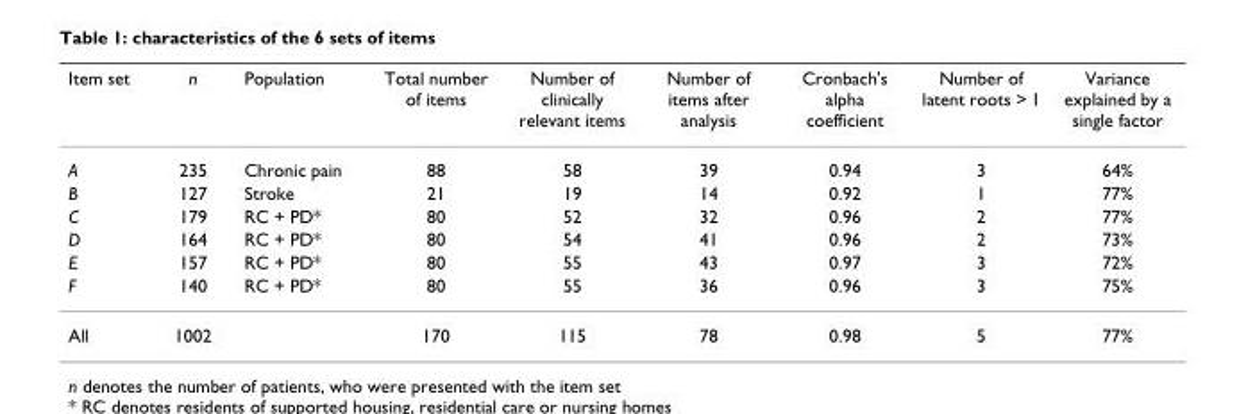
<table><thead><tr><td>Item set</td><td>n</td><td>Population</td><td>Total number of items</td><td>Number of clinically relevant items</td><td>Number of items after analysis</td><td>Cronbach&#x27;s alpha coefficient</td><td>Number of latent roots &gt; 1</td><td>Variance explained by a single factor</td></tr></thead><tbody><tr><td>A</td><td>235</td><td>Chronic pain</td><td>88</td><td>58</td><td>39</td><td>0.94</td><td>3</td><td>64%</td></tr><tr><td>B</td><td>127</td><td>Stroke</td><td>21</td><td>19</td><td>14</td><td>0.92</td><td>1</td><td>77%</td></tr><tr><td>C</td><td>179</td><td>RC + PD*</td><td>80</td><td>52</td><td>32</td><td>0.96</td><td>2</td><td>77%</td></tr><tr><td>D</td><td>164</td><td>RC + PD*</td><td>80</td><td>54</td><td>41</td><td>0.96</td><td>2</td><td>73%</td></tr><tr><td>E</td><td>157</td><td>RC + PD*</td><td>80</td><td>55</td><td>43</td><td>0.97</td><td>3</td><td>72%</td></tr><tr><td>F</td><td>140</td><td>RC + PD*</td><td>80</td><td>55</td><td>36</td><td>0.96</td><td>3</td><td>75%</td></tr><tr><td>All</td><td>1002</td><td></td><td>170</td><td>115</td><td>78</td><td>0.98</td><td>5</td><td>77%</td></tr></tbody></table>